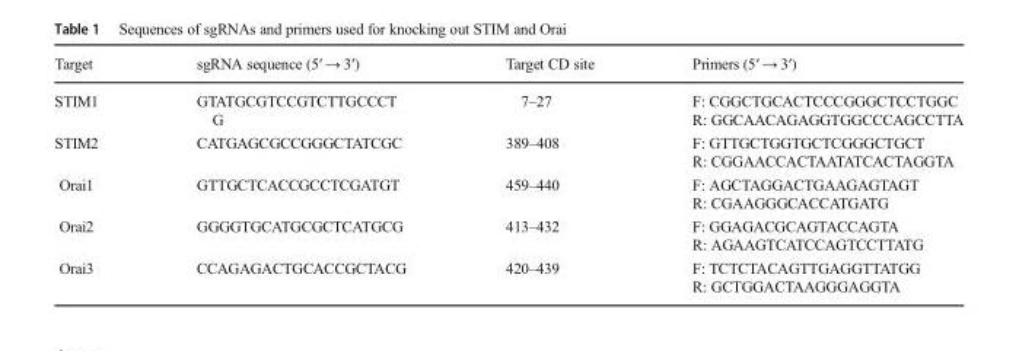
<table><thead><tr><td>Target</td><td>sgRNA sequence (5′ → 3′)</td><td>Target CD site</td><td>Primers (5′ → 3′)</td></tr></thead><tbody><tr><td>STIM1</td><td>GTATGCGTCCGTCTTGCCCT G</td><td>7–27</td><td>F: CGGCTGCACTCCCGGGCTCCTGGC R: GGCAACAGAGGTGGCCCAGCCTTA</td></tr><tr><td>STIM2</td><td>CATGAGCGCCGGGCTATCGC</td><td>389–408</td><td>F: GTTGCTGGTGCTCGGGCTGCT R: CGGAACCACTAATATCACTAGGTA</td></tr><tr><td>Orai1</td><td>GTTGCTCACCGCCTCGATGT</td><td>459–440</td><td>F: AGCTAGGACTGAAGAGTAGT R: CGAAGGGCACCATGATG</td></tr><tr><td>Orai2</td><td>GGGGTGCATGCGCTCATGCG</td><td>413–432</td><td>F: GGAGACGCAGTACCAGTA R: AGAAGTCATCCAGTCCTTATG</td></tr><tr><td>Orai3</td><td>CCAGAGACTGCACCGCTACG</td><td>420–439</td><td>F: TCTCTACAGTTGAGGTTATGG R: GCTGGACTAAGGGAGGTA</td></tr></tbody></table>